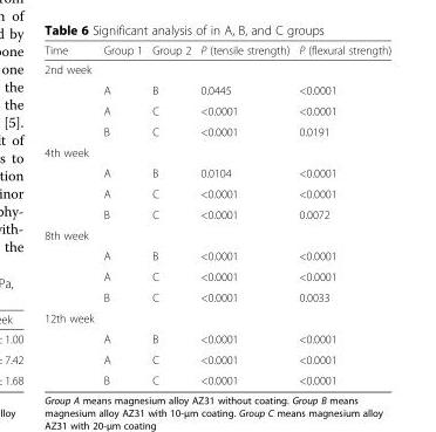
<table><thead><tr><td>Time</td><td>Group 1</td><td>Group 2</td><td>P (tensile strength)</td><td>P (flexural strength)</td></tr></thead><tbody><tr><td colspan="5">2nd week</td></tr><tr><td></td><td>A</td><td>B</td><td>0.0445</td><td>&lt;0.0001</td></tr><tr><td></td><td>A</td><td>C</td><td>&lt;0.0001</td><td>&lt;0.0001</td></tr><tr><td></td><td>B</td><td>C</td><td>&lt;0.0001</td><td>0.0191</td></tr><tr><td colspan="5">4th week</td></tr><tr><td></td><td>A</td><td>B</td><td>0.0104</td><td>&lt;0.0001</td></tr><tr><td></td><td>A</td><td>C</td><td>&lt;0.0001</td><td>&lt;0.0001</td></tr><tr><td></td><td>B</td><td>C</td><td>&lt;0.0001</td><td>0.0072</td></tr><tr><td colspan="5">8th week</td></tr><tr><td></td><td>A</td><td>B</td><td>&lt;0.0001</td><td>&lt;0.0001</td></tr><tr><td></td><td>A</td><td>C</td><td>&lt;0.0001</td><td>&lt;0.0001</td></tr><tr><td></td><td>B</td><td>C</td><td>&lt;0.0001</td><td>0.0033</td></tr><tr><td colspan="5">12th week</td></tr><tr><td></td><td>A</td><td>B</td><td>&lt;0.0001</td><td>&lt;0.0001</td></tr><tr><td></td><td>A</td><td>C</td><td>&lt;0.0001</td><td>&lt;0.0001</td></tr><tr><td></td><td>B</td><td>C</td><td>&lt;0.0001</td><td>&lt;0.0001</td></tr></tbody></table>